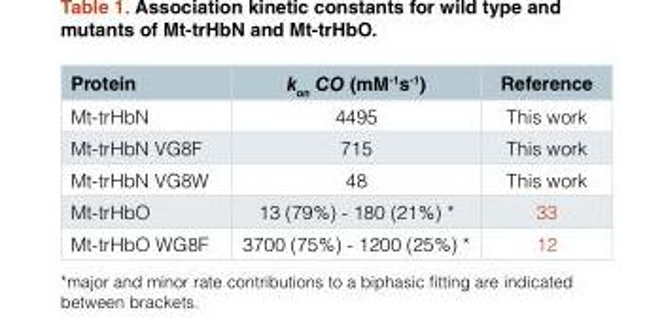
<table><thead><tr><td>Protein</td><td>k<sub>on</sub> CO (mM<sup>-1</sup>s<sup>-1</sup>)</td><td>Reference</td></tr></thead><tbody><tr><td>Mt-trHbN</td><td>4495</td><td>This work</td></tr><tr><td>Mt-trHbN VG8F</td><td>715</td><td>This work</td></tr><tr><td>Mt-trHbN VG8W</td><td>48</td><td>This work</td></tr><tr><td>Mt-trHbO</td><td>13 (79%) - 180 (21%) *</td><td>33</td></tr><tr><td>Mt-trHbO WG8F</td><td>3700 (75%) - 1200 (25%) *</td><td>12</td></tr></tbody></table>